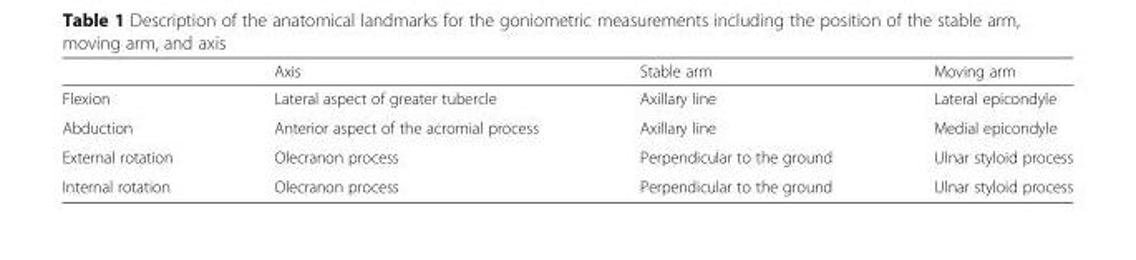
<table><thead><tr><td></td><td>Axis</td><td>Stable arm</td><td>Moving arm</td></tr></thead><tbody><tr><td>Flexion</td><td>Lateral aspect of greater tubercle</td><td>Axillary line</td><td>Lateral epicondyle</td></tr><tr><td>Abduction</td><td>Anterior aspect of the acromial process</td><td>Axillary line</td><td>Medial epicondyle</td></tr><tr><td>External rotation</td><td>Olecranon process</td><td>Perpendicular to the ground</td><td>Ulnar styloid process</td></tr><tr><td>Internal rotation</td><td>Olecranon process</td><td>Perpendicular to the ground</td><td>Ulnar styloid process</td></tr></tbody></table>